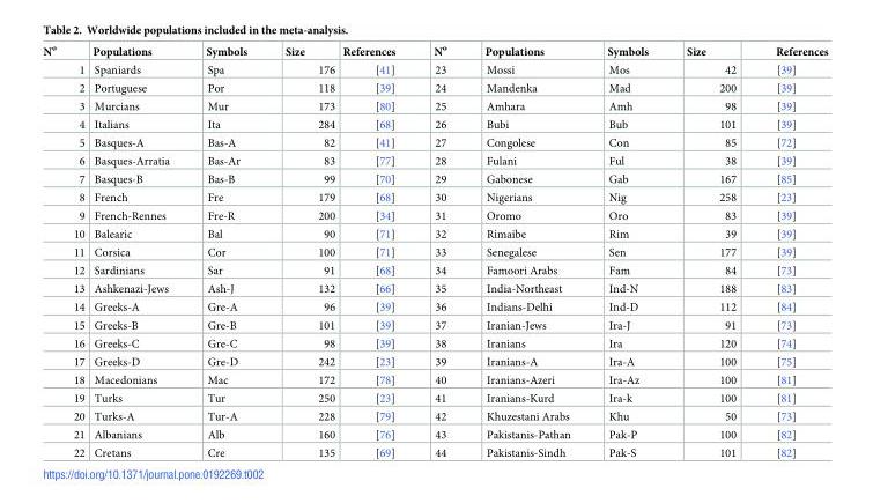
<table><thead><tr><td>N<sup>o</sup></td><td>Populations</td><td>Symbols</td><td>Size</td><td>References</td><td>N<sup>o</sup></td><td>Populations</td><td>Symbols</td><td>Size</td><td>References</td></tr></thead><tbody><tr><td>1</td><td>Spaniards</td><td>Spa</td><td>176</td><td>[41]</td><td>23</td><td>Mossi</td><td>Mos</td><td>42</td><td>[39]</td></tr><tr><td>2</td><td>Portuguese</td><td>Por</td><td>118</td><td>[39]</td><td>24</td><td>Mandenka</td><td>Mad</td><td>200</td><td>[39]</td></tr><tr><td>3</td><td>Murcians</td><td>Mur</td><td>173</td><td>[80]</td><td>25</td><td>Amhara</td><td>Amh</td><td>98</td><td>[39]</td></tr><tr><td>4</td><td>Italians</td><td>Ita</td><td>284</td><td>[68]</td><td>26</td><td>Bubi</td><td>Bub</td><td>101</td><td>[39]</td></tr><tr><td>5</td><td>Basques-A</td><td>Bas-A</td><td>82</td><td>[41]</td><td>27</td><td>Congolese</td><td>Con</td><td>85</td><td>[72]</td></tr><tr><td>6</td><td>Basques-Arratia</td><td>Bas-Ar</td><td>83</td><td>[77]</td><td>28</td><td>Fulani</td><td>Ful</td><td>38</td><td>[39]</td></tr><tr><td>7</td><td>Basques-B</td><td>Bas-B</td><td>99</td><td>[70]</td><td>29</td><td>Gabonese</td><td>Gab</td><td>167</td><td>[85]</td></tr><tr><td>8</td><td>French</td><td>Fre</td><td>179</td><td>[68]</td><td>30</td><td>Nigerians</td><td>Nig</td><td>258</td><td>[23]</td></tr><tr><td>9</td><td>French-Rennes</td><td>Fre-R</td><td>200</td><td>[34]</td><td>31</td><td>Oromo</td><td>Oro</td><td>83</td><td>[39]</td></tr><tr><td>10</td><td>Balearic</td><td>Bal</td><td>90</td><td>[71]</td><td>32</td><td>Rimaibe</td><td>Rim</td><td>39</td><td>[39]</td></tr><tr><td>11</td><td>Corsica</td><td>Cor</td><td>100</td><td>[71]</td><td>33</td><td>Senegalese</td><td>Sen</td><td>177</td><td>[39]</td></tr><tr><td>12</td><td>Sardinians</td><td>Sar</td><td>91</td><td>[68]</td><td>34</td><td>Famoori Arabs</td><td>Fam</td><td>84</td><td>[73]</td></tr><tr><td>13</td><td>Ashkenazi-Jews</td><td>Ash-J</td><td>132</td><td>[66]</td><td>35</td><td>India-Northeast</td><td>Ind-N</td><td>188</td><td>[83]</td></tr><tr><td>14</td><td>Greeks-A</td><td>Gre-A</td><td>96</td><td>[39]</td><td>36</td><td>Indians-Delhi</td><td>Ind-D</td><td>112</td><td>[84]</td></tr><tr><td>15</td><td>Greeks-B</td><td>Gre-B</td><td>101</td><td>[39]</td><td>37</td><td>Iranian-Jews</td><td>Ira-J</td><td>91</td><td>[73]</td></tr><tr><td>16</td><td>Greeks-C</td><td>Gre-C</td><td>98</td><td>[39]</td><td>38</td><td>Iranians</td><td>Ira</td><td>120</td><td>[74]</td></tr><tr><td>17</td><td>Greeks-D</td><td>Gre-D</td><td>242</td><td>[23]</td><td>39</td><td>Iranians-A</td><td>Ira-A</td><td>100</td><td>[75]</td></tr><tr><td>18</td><td>Macedonians</td><td>Mac</td><td>172</td><td>[78]</td><td>40</td><td>Iranians-Azeri</td><td>Ira-Az</td><td>100</td><td>[81]</td></tr><tr><td>19</td><td>Turks</td><td>Tur</td><td>250</td><td>[23]</td><td>41</td><td>Iranians-Kurd</td><td>Ira-k</td><td>100</td><td>[81]</td></tr><tr><td>20</td><td>Turks-A</td><td>Tur-A</td><td>228</td><td>[79]</td><td>42</td><td>Khuzestani Arabs</td><td>Khu</td><td>50</td><td>[73]</td></tr><tr><td>21</td><td>Albanians</td><td>Alb</td><td>160</td><td>[76]</td><td>43</td><td>Pakistanis-Pathan</td><td>Pak-P</td><td>100</td><td>[82]</td></tr><tr><td>22</td><td>Cretans</td><td>Cre</td><td>135</td><td>[69]</td><td>44</td><td>Pakistanis-Sindh</td><td>Pak-S</td><td>101</td><td>[82]</td></tr></tbody></table>